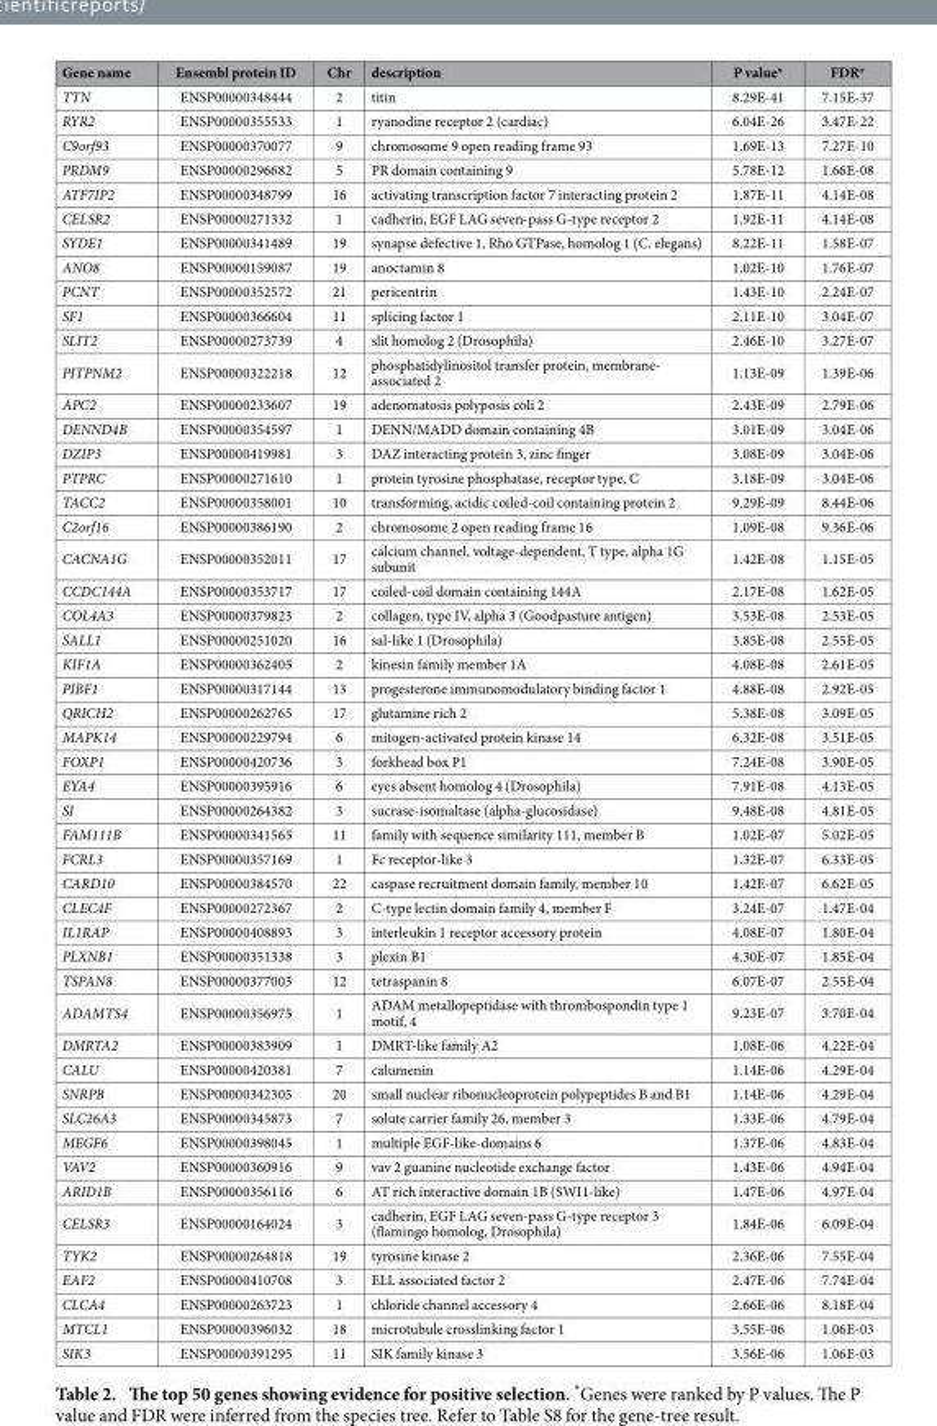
<table><thead><tr><td>Gene name</td><td>Ensembl protein ID</td><td>Chr</td><td>description</td><td>P value*</td><td>FDR*</td></tr></thead><tbody><tr><td>TTN</td><td>ENSP00000348444</td><td>2</td><td>titin</td><td>8.29E-41</td><td>7.15E-37</td></tr><tr><td>RYR2</td><td>ENSP00000355533</td><td>1</td><td>ryanodine receptor 2 (cardiac)</td><td>6.04E-26</td><td>3.47E-22</td></tr><tr><td>C9orf93</td><td>ENSP00000370077</td><td>9</td><td>chromosome 9 open reading frame 93</td><td>1.69E-13</td><td>7.27E-10</td></tr><tr><td>PRDM9</td><td>ENSP00000296682</td><td>5</td><td>PR domain containing 9</td><td>5.78E-12</td><td>1.66E-08</td></tr><tr><td>ATF7IP2</td><td>ENSP00000348799</td><td>16</td><td>activating transcription factor 7 interacting protein 2</td><td>1.87E-11</td><td>4.14E-08</td></tr><tr><td>CELSR2</td><td>ENSP00000271332</td><td>1</td><td>cadherin, EGF LAG seven-pass G-type receptor 2</td><td>1.92E-11</td><td>4.14E-08</td></tr><tr><td>SYDE1</td><td>ENSP00000341489</td><td>19</td><td>synapse defective 1, Rho GTPase, homolog 1 (C. elegans)</td><td>8.22E-11</td><td>1.58E-07</td></tr><tr><td>ANO8</td><td>ENSP00000159087</td><td>19</td><td>anoctamin 8</td><td>1.02E-10</td><td>1.76E-07</td></tr><tr><td>PCNT</td><td>ENSP00000352572</td><td>21</td><td>pericentrin</td><td>1.43E-10</td><td>2.24E-07</td></tr><tr><td>SF1</td><td>ENSP00000366604</td><td>11</td><td>splicing factor 1</td><td>2.11E-10</td><td>3.04E-07</td></tr><tr><td>SLIT2</td><td>ENSP00000273739</td><td>4</td><td>slit homolog 2 (Drosophila)</td><td>2.46E-10</td><td>3.27E-07</td></tr><tr><td>PITPNM2</td><td>ENSP00000322218</td><td>12</td><td>phosphatidylinositol transfer protein, membrane- associated 2</td><td>1.13E-09</td><td>1.39E-06</td></tr><tr><td>APC2</td><td>ENSP00000233607</td><td>19</td><td>adenomatosis polyposis coli 2</td><td>2.43E-09</td><td>2.79E-06</td></tr><tr><td>DENND4B</td><td>ENSP00000354597</td><td>1</td><td>DENN/MADD domain containing 4B</td><td>3.01E-09</td><td>3.04E-06</td></tr><tr><td>DZIP3</td><td>ENSP00000419981</td><td>3</td><td>DAZ interacting protein 3, zinc finger</td><td>3.08E-09</td><td>3.04E-06</td></tr><tr><td>PTPRC</td><td>ENSP00000271610</td><td>1</td><td>protein tyrosine phosphatase, receptor type, C</td><td>3.18E-09</td><td>3.04E-06</td></tr><tr><td>TACC2</td><td>ENSP00000358001</td><td>10</td><td>transforming, acidic coiled-coil containing protein 2</td><td>9.29E-09</td><td>8.44E-06</td></tr><tr><td>C2orf16</td><td>ENSP00000386190</td><td>2</td><td>chromosome 2 open reading frame 16</td><td>1.09E-08</td><td>9.36E-06</td></tr><tr><td>CACNA1G</td><td>ENSP00000352011</td><td>17</td><td>calcium channel, voltage-dependent, T type, alpha 1G subunit</td><td>1.42E-08</td><td>1.15E-05</td></tr><tr><td>CCDC144A</td><td>ENSP00000353717</td><td>17</td><td>coiled-coil domain containing 144A</td><td>2.17E-08</td><td>1.62E-05</td></tr><tr><td>COL4A3</td><td>ENSP00000379823</td><td>2</td><td>collagen, type IV, alpha 3 (Goodpasture antigen)</td><td>3.53E-08</td><td>2.53E-05</td></tr><tr><td>SALL1</td><td>ENSP00000251020</td><td>16</td><td>sal-like 1 (Drosophila)</td><td>3.85E-08</td><td>2.55E-05</td></tr><tr><td>KIF1A</td><td>ENSP00000362405</td><td>2</td><td>kinesin family member 1A</td><td>4.08E-08</td><td>2.61E-05</td></tr><tr><td>PIBF1</td><td>ENSP00000317144</td><td>13</td><td>progesterone immunomodulatory binding factor 1</td><td>4.88E-08</td><td>2.92E-05</td></tr><tr><td>QRICH2</td><td>ENSP00000262765</td><td>17</td><td>glutamine rich 2</td><td>5.38E-08</td><td>3.09E-05</td></tr><tr><td>MAPK14</td><td>ENSP00000229794</td><td>6</td><td>mitogen-activated protein kinase 14</td><td>6.32E-08</td><td>3.51E-05</td></tr><tr><td>FOXP1</td><td>ENSP00000420736</td><td>3</td><td>forkhead box P1</td><td>7.24E-08</td><td>3.90E-05</td></tr><tr><td>EYA4</td><td>ENSP00000395916</td><td>6</td><td>eyes absent homolog 4 (Drosophila)</td><td>7.91E-08</td><td>4.13E-05</td></tr><tr><td>SI</td><td>ENSP00000264382</td><td>3</td><td>sucrase-isomaltase (alpha-glucosidase)</td><td>9.48E-08</td><td>4.81E-05</td></tr><tr><td>FAM111B</td><td>ENSP00000341565</td><td>11</td><td>family with sequence similarity 111, member B</td><td>1.02E-07</td><td>5.02E-05</td></tr><tr><td>FCRL3</td><td>ENSP00000357169</td><td>1</td><td>Fc receptor-like 3</td><td>1.32E-07</td><td>6.33E-05</td></tr><tr><td>CARD10</td><td>ENSP00000384570</td><td>22</td><td>caspase recruitment domain family, member 10</td><td>1.42E-07</td><td>6.62E-05</td></tr><tr><td>CLEC4F</td><td>ENSP00000272367</td><td>2</td><td>C-type lectin domain family 4, member F</td><td>3.24E-07</td><td>1.47E-04</td></tr><tr><td>IL1RAP</td><td>ENSP00000408893</td><td>3</td><td>interleukin 1 receptor accessory protein</td><td>4.08E-07</td><td>1.80E-04</td></tr><tr><td>PLXNB1</td><td>ENSP00000351338</td><td>3</td><td>plexin B1</td><td>4.30E-07</td><td>1.85E-04</td></tr><tr><td>TSPAN8</td><td>ENSP00000377003</td><td>12</td><td>tetraspanin 8</td><td>6.07E-07</td><td>2.55E-04</td></tr><tr><td>ADAMTS4</td><td>ENSP00000356975</td><td>1</td><td>ADAM metallopeptidase with thrombospondin type 1 motif, 4</td><td>9.23E-07</td><td>3.70E-04</td></tr><tr><td>DMRTA2</td><td>ENSP00000383909</td><td>1</td><td>DMRT-like family A2</td><td>1.08E-06</td><td>4.22E-04</td></tr><tr><td>CALU</td><td>ENSP00000420381</td><td>7</td><td>calumenin</td><td>1.14E-06</td><td>4.29E-04</td></tr><tr><td>SNRPB</td><td>ENSP00000342305</td><td>20</td><td>small nuclear ribonucleoprotein polypeptides B and B1</td><td>1.14E-06</td><td>4.29E-04</td></tr><tr><td>SLC26A3</td><td>ENSP00000345873</td><td>7</td><td>solute carrier family 26, member 3</td><td>1.33E-06</td><td>4.79E-04</td></tr><tr><td>MEGF6</td><td>ENSP00000398045</td><td>1</td><td>multiple EGF-like-domains 6</td><td>1.37E-06</td><td>4.83E-04</td></tr><tr><td>VAV2</td><td>ENSP00000360916</td><td>9</td><td>vav 2 guanine nucleotide exchange factor</td><td>1.43E-06</td><td>4.94E-04</td></tr><tr><td>ARID1B</td><td>ENSP00000356116</td><td>6</td><td>AT rich interactive domain 1B (SWI1-like)</td><td>1.47E-06</td><td>4.97E-04</td></tr><tr><td>CELSR3</td><td>ENSP00000164024</td><td>3</td><td>cadherin, EGF LAG seven-pass G-type receptor 3 (flamingo homolog, Drosophila)</td><td>1.84E-06</td><td>6.09E-04</td></tr><tr><td>TYK2</td><td>ENSP00000264818</td><td>19</td><td>tyrosine kinase 2</td><td>2.36E-06</td><td>7.55E-04</td></tr><tr><td>EAF2</td><td>ENSP00000410708</td><td>3</td><td>ELL associated factor 2</td><td>2.47E-06</td><td>7.74E-04</td></tr><tr><td>CLCA4</td><td>ENSP00000263723</td><td>1</td><td>chloride channel accessory 4</td><td>2.66E-06</td><td>8.18E-04</td></tr><tr><td>MTCL1</td><td>ENSP00000396032</td><td>18</td><td>microtubule crosslinking factor 1</td><td>3.55E-06</td><td>1.06E-03</td></tr><tr><td>SIK3</td><td>ENSP00000391295</td><td>11</td><td>SIK family kinase 3</td><td>3.56E-06</td><td>1.06E-03</td></tr></tbody></table>